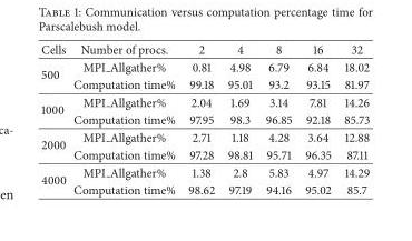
<table><thead><tr><td>Cells</td><td>Number of procs.</td><td>2</td><td>4</td><td>8</td><td>16</td><td>32</td></tr></thead><tbody><tr><td rowspan="2">500</td><td>MPI Allgather%</td><td>0.81</td><td>4.98</td><td>6.79</td><td>6.84</td><td>18.02</td></tr><tr><td>Computation time%</td><td>99.18</td><td>95.01</td><td>93.2</td><td>93.15</td><td>81.97</td></tr><tr><td rowspan="2">1000</td><td>MPI Allgather%</td><td>2.04</td><td>1.69</td><td>3.14</td><td>7.81</td><td>14.26</td></tr><tr><td>Computation time%</td><td>97.95</td><td>98.3</td><td>96.85</td><td>92.18</td><td>85.73</td></tr><tr><td rowspan="2">2000</td><td>MPI Allgather%</td><td>2.71</td><td>1.18</td><td>4.28</td><td>3.64</td><td>12.88</td></tr><tr><td>Computation time%</td><td>97.28</td><td>98.81</td><td>95.71</td><td>96.35</td><td>87.11</td></tr><tr><td rowspan="2">4000</td><td>MPI Allgather%</td><td>1.38</td><td>2.8</td><td>5.83</td><td>4.97</td><td>14.29</td></tr><tr><td>Computation time%</td><td>98.62</td><td>97.19</td><td>94.16</td><td>95.02</td><td>85.7</td></tr></tbody></table>